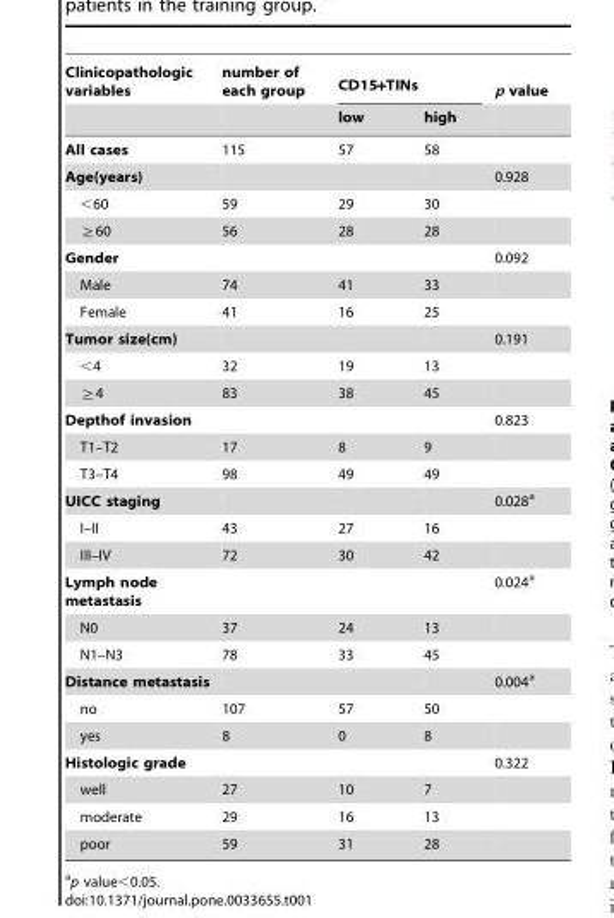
<table><thead><tr><td rowspan="2">Clinicopathologic variables</td><td rowspan="2">number of each group</td><td colspan="2">CD15+TINs</td><td rowspan="2">p value</td></tr><tr><td>low</td><td>high</td></tr></thead><tbody><tr><td>All cases</td><td>115</td><td>57</td><td>58</td><td></td></tr><tr><td>Age(years)</td><td></td><td></td><td></td><td>0.928</td></tr><tr><td>&lt;60</td><td>59</td><td>29</td><td>30</td><td></td></tr><tr><td>≧60</td><td>56</td><td>28</td><td>28</td><td></td></tr><tr><td>Gender</td><td></td><td></td><td></td><td>0.092</td></tr><tr><td>Male</td><td>74</td><td>41</td><td>33</td><td></td></tr><tr><td>Female</td><td>41</td><td>16</td><td>25</td><td></td></tr><tr><td>Tumor size(cm)</td><td></td><td></td><td></td><td>0.191</td></tr><tr><td>&lt;4</td><td>32</td><td>19</td><td>13</td><td></td></tr><tr><td>≧4</td><td>83</td><td>38</td><td>45</td><td></td></tr><tr><td>Depthof invasion</td><td></td><td></td><td></td><td>0.823</td></tr><tr><td>T1–T2</td><td>17</td><td>8</td><td>9</td><td></td></tr><tr><td>T3–T4</td><td>98</td><td>49</td><td>49</td><td></td></tr><tr><td>UICC staging</td><td></td><td></td><td></td><td>0.028<sup>a</sup></td></tr><tr><td>I–II</td><td>43</td><td>27</td><td>16</td><td></td></tr><tr><td>III–IV</td><td>72</td><td>30</td><td>42</td><td></td></tr><tr><td>Lymph node metastasis</td><td></td><td></td><td></td><td>0.024<sup>a</sup></td></tr><tr><td>N0</td><td>37</td><td>24</td><td>13</td><td></td></tr><tr><td>N1–N3</td><td>78</td><td>33</td><td>45</td><td></td></tr><tr><td>Distance metastasis</td><td></td><td></td><td></td><td>0.004<sup>a</sup></td></tr><tr><td>no</td><td>107</td><td>57</td><td>50</td><td></td></tr><tr><td>yes</td><td>8</td><td>0</td><td>8</td><td></td></tr><tr><td>Histologic grade</td><td></td><td></td><td></td><td>0.322</td></tr><tr><td>well</td><td>27</td><td>10</td><td>7</td><td></td></tr><tr><td>moderate</td><td>29</td><td>16</td><td>13</td><td></td></tr><tr><td>poor</td><td>59</td><td>31</td><td>28</td><td></td></tr></tbody></table>